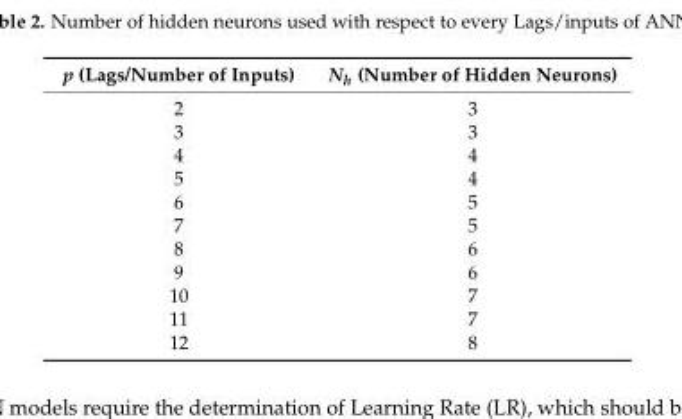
<table><thead><tr><td>p (Lags/Number of Inputs)</td><td>N<sub>h</sub> (Number of Hidden Neurons)</td></tr></thead><tbody><tr><td>2</td><td>3</td></tr><tr><td>3</td><td>3</td></tr><tr><td>4</td><td>4</td></tr><tr><td>5</td><td>4</td></tr><tr><td>6</td><td>5</td></tr><tr><td>7</td><td>5</td></tr><tr><td>8</td><td>6</td></tr><tr><td>9</td><td>6</td></tr><tr><td>10</td><td>7</td></tr><tr><td>11</td><td>7</td></tr><tr><td>12</td><td>8</td></tr></tbody></table>